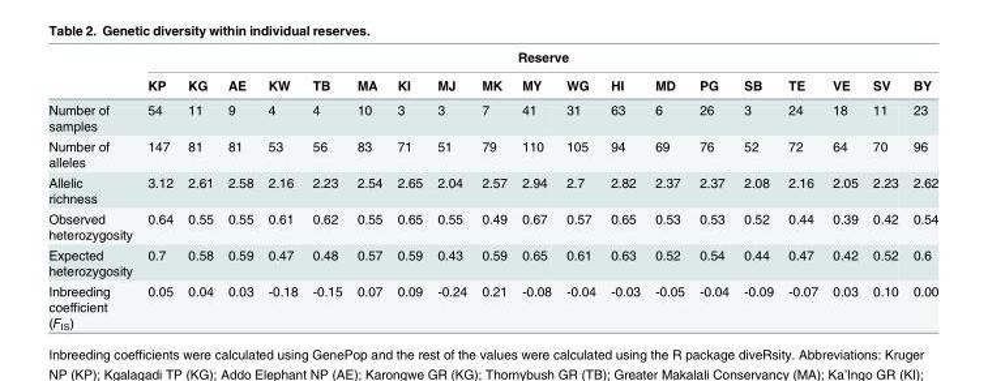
<table><thead><tr><td rowspan="2"></td><td colspan="19">Reserve</td></tr><tr><td>KP</td><td>KG</td><td>AE</td><td>KW</td><td>TB</td><td>MA</td><td>KI</td><td>MJ</td><td>MK</td><td>MY</td><td>WG</td><td>HI</td><td>MD</td><td>PG</td><td>SB</td><td>TE</td><td>VE</td><td>SV</td><td>BY</td></tr></thead><tbody><tr><td>Number of samples</td><td>54</td><td>11</td><td>9</td><td>4</td><td>4</td><td>10</td><td>3</td><td>3</td><td>7</td><td>41</td><td>31</td><td>63</td><td>6</td><td>26</td><td>3</td><td>24</td><td>18</td><td>11</td><td>23</td></tr><tr><td>Number of alleles</td><td>147</td><td>81</td><td>81</td><td>53</td><td>56</td><td>83</td><td>71</td><td>51</td><td>79</td><td>110</td><td>105</td><td>94</td><td>69</td><td>76</td><td>52</td><td>72</td><td>64</td><td>70</td><td>96</td></tr><tr><td>Allelic richness</td><td>3.12</td><td>2.61</td><td>2.58</td><td>2.16</td><td>2.23</td><td>2.54</td><td>2.65</td><td>2.04</td><td>2.57</td><td>2.94</td><td>2.7</td><td>2.82</td><td>2.37</td><td>2.37</td><td>2.08</td><td>2.16</td><td>2.05</td><td>2.23</td><td>2.62</td></tr><tr><td>Observed heterozygosity</td><td>0.64</td><td>0.55</td><td>0.55</td><td>0.61</td><td>0.62</td><td>0.55</td><td>0.65</td><td>0.55</td><td>0.49</td><td>0.67</td><td>0.57</td><td>0.65</td><td>0.53</td><td>0.53</td><td>0.52</td><td>0.44</td><td>0.39</td><td>0.42</td><td>0.54</td></tr><tr><td>Expected heterozygosity</td><td>0.7</td><td>0.58</td><td>0.59</td><td>0.47</td><td>0.48</td><td>0.57</td><td>0.59</td><td>0.43</td><td>0.59</td><td>0.65</td><td>0.61</td><td>0.63</td><td>0.52</td><td>0.54</td><td>0.44</td><td>0.47</td><td>0.42</td><td>0.52</td><td>0.6</td></tr><tr><td>Inbreeding coefficient (F<sub>IS</sub>)</td><td>0.05</td><td>0.04</td><td>0.03</td><td>-0.18</td><td>-0.15</td><td>0.07</td><td>0.09</td><td>-0.24</td><td>0.21</td><td>-0.08</td><td>-0.04</td><td>-0.03</td><td>-0.05</td><td>-0.04</td><td>-0.09</td><td>-0.07</td><td>0.03</td><td>0.10</td><td>0.00</td></tr></tbody></table>